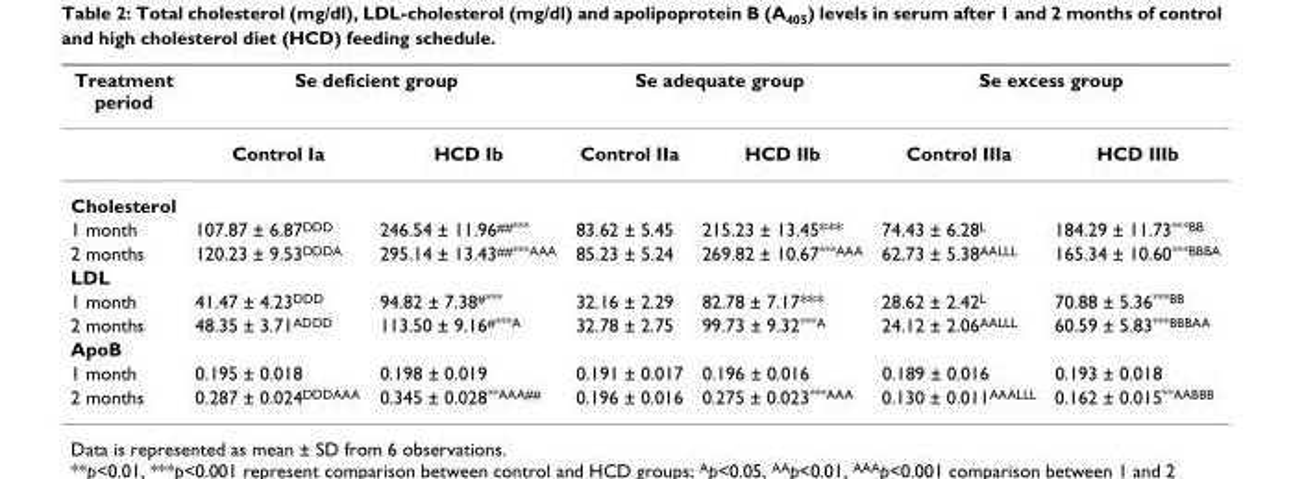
<table><thead><tr><td rowspan="2">Treatment period</td><td colspan="2">Se deficient group</td><td colspan="2">Se adequate group</td><td colspan="2">Se excess group</td></tr><tr><td>Control Ia</td><td>HCD Ib</td><td>Control IIa</td><td>HCD IIb</td><td>Control IIIa</td><td>HCD IIIb</td></tr></thead><tbody><tr><td colspan="7">Cholesterol</td></tr><tr><td>1 month</td><td>107.87 ± 6.87<sup>DDD</sup></td><td>246.54 ± 11.96<sup>##***</sup></td><td>83.62 ± 5.45</td><td>215.23 ± 13.45***</td><td>74.43 ± 6.28<sup>L</sup></td><td>184.29 ± 11.73<sup>***BB</sup></td></tr><tr><td>2 months</td><td>120.23 ± 9.53<sup>DDDA</sup></td><td>295.14 ± 13.43<sup>##***AAA</sup></td><td>85.23 ± 5.24</td><td>269.82 ± 10.67<sup>***AAA</sup></td><td>62.73 ± 5.38<sup>AALLL</sup></td><td>165.34 ± 10.60<sup>***BBBA</sup></td></tr><tr><td colspan="7">LDL</td></tr><tr><td>1 month</td><td>41.47 ± 4.23<sup>DDD</sup></td><td>94.82 ± 7.38<sup>#***</sup></td><td>32.16 ± 2.29</td><td>82.78 ± 7.17***</td><td>28.62 ± 2.42<sup>L</sup></td><td>70.88 ± 5.36<sup>***BB</sup></td></tr><tr><td>2 months</td><td>48.35 ± 3.71<sup>ADDD</sup></td><td>113.50 ± 9.16<sup>#***A</sup></td><td>32.78 ± 2.75</td><td>99.73 ± 9.32<sup>***A</sup></td><td>24.12 ± 2.06<sup>AALLL</sup></td><td>60.59 ± 5.83<sup>***BBBAA</sup></td></tr><tr><td colspan="7">ApoB</td></tr><tr><td>1 month</td><td>0.195 ± 0.018</td><td>0.198 ± 0.019</td><td>0.191 ± 0.017</td><td>0.196 ± 0.016</td><td>0.189 ± 0.016</td><td>0.193 ± 0.018</td></tr><tr><td>2 months</td><td>0.287 ± 0.024<sup>DDDAAA</sup></td><td>0.345 ± 0.028<sup>**AAA##</sup></td><td>0.196 ± 0.016</td><td>0.275 ± 0.023<sup>***AAA</sup></td><td>0.130 ± 0.011<sup>AAALLL</sup></td><td>0.162 ± 0.015<sup>**AABBB</sup></td></tr></tbody></table>